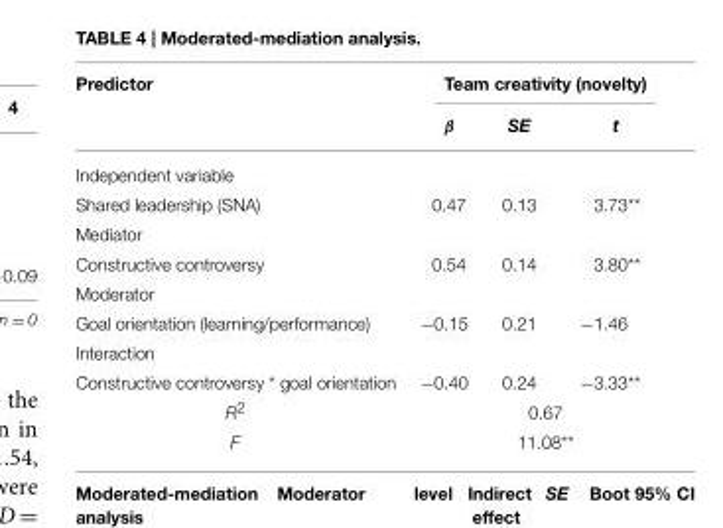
<table><thead><tr><td rowspan="2">Predictor</td><td colspan="3">Team creativity (novelty)</td></tr><tr><td>β</td><td>SE</td><td>t</td></tr></thead><tbody><tr><td colspan="4">Independent variable</td></tr><tr><td>Shared leadership (SNA)</td><td>0.47</td><td>0.13</td><td>3.73**</td></tr><tr><td colspan="4">Mediator</td></tr><tr><td>Constructive controversy</td><td>0.54</td><td>0.14</td><td>3.80**</td></tr><tr><td colspan="4">Moderator</td></tr><tr><td>Goal orientation (learning/performance)</td><td>−0.15</td><td>0.21</td><td>−1.46</td></tr><tr><td colspan="4">Interaction</td></tr><tr><td>Constructive controversy * goal orientation</td><td>−0.40</td><td>0.24</td><td>−3.33**</td></tr><tr><td>R<sup>2</sup></td><td colspan="3">0.67</td></tr><tr><td>F</td><td colspan="3">11.08**</td></tr></tbody></table>